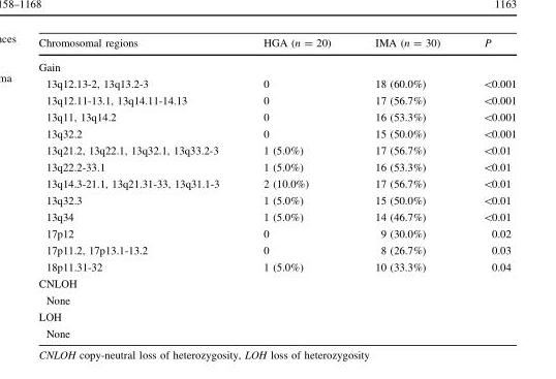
<table><thead><tr><td>Chromosomal regions</td><td>HGA (n = 20)</td><td>IMA (n = 30)</td><td>P</td></tr></thead><tbody><tr><td colspan="4">Gain</td></tr><tr><td>13q12.13-2, 13q13.2-3</td><td>0</td><td>18 (60.0%)</td><td>&lt;0.001</td></tr><tr><td>13q12.11-13.1, 13q14.11-14.13</td><td>0</td><td>17 (56.7%)</td><td>&lt;0.001</td></tr><tr><td>13q11, 13q14.2</td><td>0</td><td>16 (53.3%)</td><td>&lt;0.001</td></tr><tr><td>13q32.2</td><td>0</td><td>15 (50.0%)</td><td>&lt;0.001</td></tr><tr><td>13q21.2, 13q22.1, 13q32.1, 13q33.2-3</td><td>1 (5.0%)</td><td>17 (56.7%)</td><td>&lt;0.01</td></tr><tr><td>13q22.2-33.1</td><td>1 (5.0%)</td><td>16 (53.3%)</td><td>&lt;0.01</td></tr><tr><td>13q14.3-21.1, 13q21.31-33, 13q31.1-3</td><td>2 (10.0%)</td><td>17 (56.7%)</td><td>&lt;0.01</td></tr><tr><td>13q32.3</td><td>1 (5.0%)</td><td>15 (50.0%)</td><td>&lt;0.01</td></tr><tr><td>13q34</td><td>1 (5.0%)</td><td>14 (46.7%)</td><td>&lt;0.01</td></tr><tr><td>17p12</td><td>0</td><td>9 (30.0%)</td><td>0.02</td></tr><tr><td>17p11.2, 17p13.1-13.2</td><td>0</td><td>8 (26.7%)</td><td>0.03</td></tr><tr><td>18p11.31-32</td><td>1 (5.0%)</td><td>10 (33.3%)</td><td>0.04</td></tr><tr><td colspan="4">CNLOH</td></tr><tr><td colspan="4">None</td></tr><tr><td colspan="4">LOH</td></tr><tr><td>None</td><td></td><td></td><td></td></tr></tbody></table>